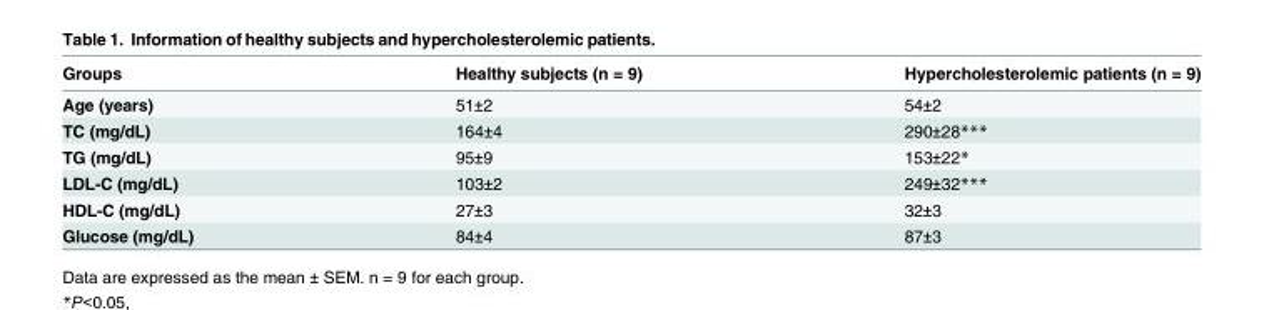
<table><thead><tr><td>Groups</td><td>Healthy subjects (n = 9)</td><td>Hypercholesterolemic patients (n = 9)</td></tr></thead><tbody><tr><td>Age (years)</td><td>51±2</td><td>54±2</td></tr><tr><td>TC (mg/dL)</td><td>164±4</td><td>290±28***</td></tr><tr><td>TG (mg/dL)</td><td>95±9</td><td>153±22*</td></tr><tr><td>LDL-C (mg/dL)</td><td>103±2</td><td>249±32***</td></tr><tr><td>HDL-C (mg/dL)</td><td>27±3</td><td>32±3</td></tr><tr><td>Glucose (mg/dL)</td><td>84±4</td><td>87±3</td></tr></tbody></table>